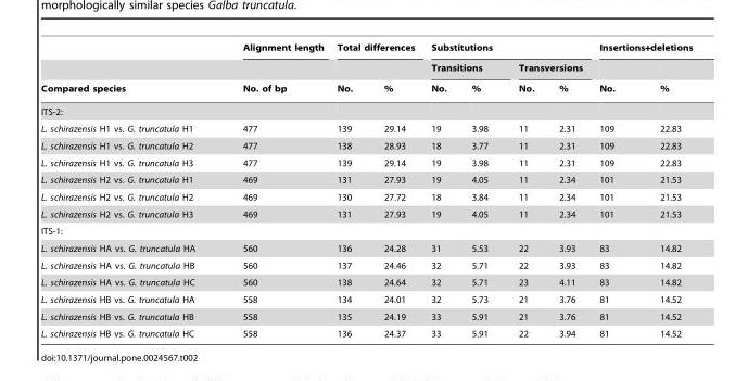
<table><thead><tr><td rowspan="3">Compared species</td><td rowspan="3">Alignment length No. of bp</td><td colspan="2">Total differences</td><td colspan="4">Substitutions</td><td colspan="2">Insertions+deletions</td></tr><tr><td rowspan="2">No.</td><td rowspan="2">%</td><td colspan="2">Transitions</td><td colspan="2">Transversions</td><td rowspan="2">No.</td><td rowspan="2">%</td></tr><tr><td>No.</td><td>%</td><td>No.</td><td>%</td></tr></thead><tbody><tr><td colspan="10">ITS-2:</td></tr><tr><td>L. schirazensis H1 vs. G. truncatula H1</td><td>477</td><td>139</td><td>29.14</td><td>19</td><td>3.98</td><td>11</td><td>2.31</td><td>109</td><td>22.83</td></tr><tr><td>L. schirazensis H1 vs. G. truncatula H2</td><td>477</td><td>138</td><td>28.93</td><td>18</td><td>3.77</td><td>11</td><td>2.31</td><td>109</td><td>22.83</td></tr><tr><td>L. schirazensis H1 vs. G. truncatula H3</td><td>477</td><td>139</td><td>29.14</td><td>19</td><td>3.98</td><td>11</td><td>2.31</td><td>109</td><td>22.83</td></tr><tr><td>L. schirazensis H2 vs. G. truncatula H1</td><td>469</td><td>131</td><td>27.93</td><td>19</td><td>4.05</td><td>11</td><td>2.34</td><td>101</td><td>21.53</td></tr><tr><td>L. schirazensis H2 vs. G. truncatula H2</td><td>469</td><td>130</td><td>27.72</td><td>18</td><td>3.84</td><td>11</td><td>2.34</td><td>101</td><td>21.53</td></tr><tr><td>L. schirazensis H2 vs. G. truncatula H3</td><td>469</td><td>131</td><td>27.93</td><td>19</td><td>4.05</td><td>11</td><td>2.34</td><td>101</td><td>21.53</td></tr><tr><td colspan="10">ITS-1:</td></tr><tr><td>L. schirazensis HA vs. G. truncatula HA</td><td>560</td><td>136</td><td>24.28</td><td>31</td><td>5.53</td><td>22</td><td>3.93</td><td>83</td><td>14.82</td></tr><tr><td>L. schirazensis HA vs. G. truncatula HB</td><td>560</td><td>137</td><td>24.46</td><td>32</td><td>5.71</td><td>22</td><td>3.93</td><td>83</td><td>14.82</td></tr><tr><td>L. schirazensis HA vs. G. truncatula HC</td><td>560</td><td>138</td><td>24.64</td><td>32</td><td>5.71</td><td>23</td><td>4.11</td><td>83</td><td>14.82</td></tr><tr><td>L. schirazensis HB vs. G. truncatula HA</td><td>558</td><td>134</td><td>24.01</td><td>32</td><td>5.73</td><td>21</td><td>3.76</td><td>81</td><td>14.52</td></tr><tr><td>L. schirazensis HB vs. G. truncatula HB</td><td>558</td><td>135</td><td>24.19</td><td>33</td><td>5.91</td><td>21</td><td>3.76</td><td>81</td><td>14.52</td></tr><tr><td>L. schirazensis HB vs. G. truncatula HC</td><td>558</td><td>136</td><td>24.37</td><td>33</td><td>5.91</td><td>22</td><td>3.94</td><td>81</td><td>14.52</td></tr></tbody></table>